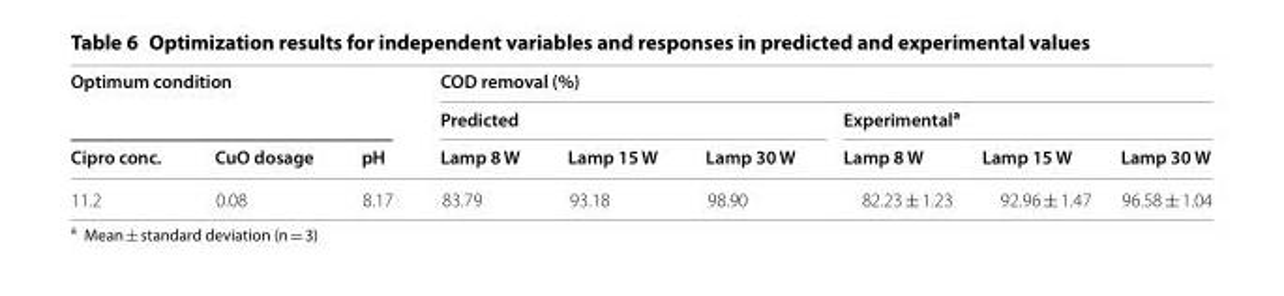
<table><thead><tr><td rowspan="2" colspan="3">Optimum condition</td><td colspan="6">COD removal (%)</td></tr><tr><td colspan="3">Predicted</td><td colspan="3">Experimental<sup>a</sup></td></tr><tr><td>Cipro conc.</td><td>CuO dosage</td><td>pH</td><td>Lamp 8 W</td><td>Lamp 15 W</td><td>Lamp 30 W</td><td>Lamp 8 W</td><td>Lamp 15 W</td><td>Lamp 30 W</td></tr></thead><tbody><tr><td>11.2</td><td>0.08</td><td>8.17</td><td>83.79</td><td>93.18</td><td>98.90</td><td>82.23 ± 1.23</td><td>92.96 ± 1.47</td><td>96.58 ± 1.04</td></tr></tbody></table>